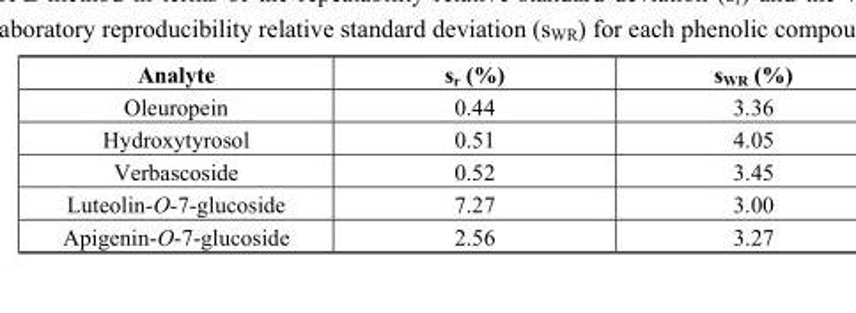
<table><thead><tr><td>Analyte</td><td>s<sub>r</sub> (%)</td><td>s<sub>WR</sub> (%)</td></tr></thead><tbody><tr><td>Oleuropein</td><td>0.44</td><td>3.36</td></tr><tr><td>Hydroxytyrosol</td><td>0.51</td><td>4.05</td></tr><tr><td>Verbascoside</td><td>0.52</td><td>3.45</td></tr><tr><td>Luteolin-O-7-glucoside</td><td>7.27</td><td>3.00</td></tr><tr><td>Apigenin-O-7-glucoside</td><td>2.56</td><td>3.27</td></tr></tbody></table>